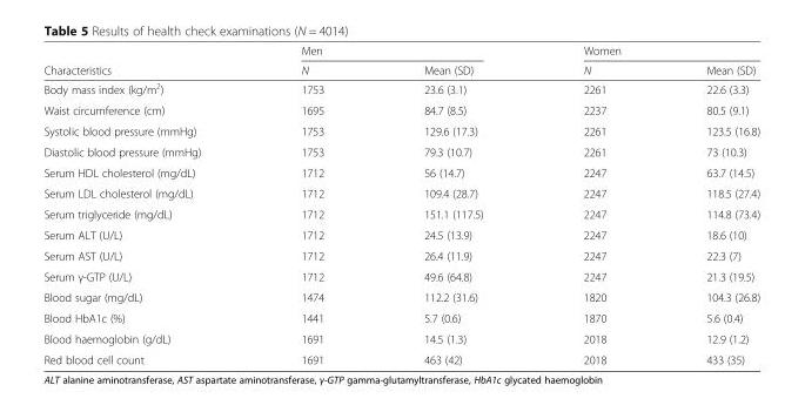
<table><thead><tr><td rowspan="2">Characteristics</td><td colspan="2">Men</td><td colspan="2">Women</td></tr><tr><td>N</td><td>Mean (SD)</td><td>N</td><td>Mean (SD)</td></tr></thead><tbody><tr><td>Body mass index (kg/m<sup>2</sup>)</td><td>1753</td><td>23.6 (3.1)</td><td>2261</td><td>22.6 (3.3)</td></tr><tr><td>Waist circumference (cm)</td><td>1695</td><td>84.7 (8.5)</td><td>2237</td><td>80.5 (9.1)</td></tr><tr><td>Systolic blood pressure (mmHg)</td><td>1753</td><td>129.6 (17.3)</td><td>2261</td><td>123.5 (16.8)</td></tr><tr><td>Diastolic blood pressure (mmHg)</td><td>1753</td><td>79.3 (10.7)</td><td>2261</td><td>73 (10.3)</td></tr><tr><td>Serum HDL cholesterol (mg/dL)</td><td>1712</td><td>56 (14.7)</td><td>2247</td><td>63.7 (14.5)</td></tr><tr><td>Serum LDL cholesterol (mg/dL)</td><td>1712</td><td>109.4 (28.7)</td><td>2247</td><td>118.5 (27.4)</td></tr><tr><td>Serum triglyceride (mg/dL)</td><td>1712</td><td>151.1 (117.5)</td><td>2247</td><td>114.8 (73.4)</td></tr><tr><td>Serum ALT (U/L)</td><td>1712</td><td>24.5 (13.9)</td><td>2247</td><td>18.6 (10)</td></tr><tr><td>Serum AST (U/L)</td><td>1712</td><td>26.4 (11.9)</td><td>2247</td><td>22.3 (7)</td></tr><tr><td>Serum γ-GTP (U/L)</td><td>1712</td><td>49.6 (64.8)</td><td>2247</td><td>21.3 (19.5)</td></tr><tr><td>Blood sugar (mg/dL)</td><td>1474</td><td>112.2 (31.6)</td><td>1820</td><td>104.3 (26.8)</td></tr><tr><td>Blood HbA1c (%)</td><td>1441</td><td>5.7 (0.6)</td><td>1870</td><td>5.6 (0.4)</td></tr><tr><td>Blood haemoglobin (g/dL)</td><td>1691</td><td>14.5 (1.3)</td><td>2018</td><td>12.9 (1.2)</td></tr><tr><td>Red blood cell count</td><td>1691</td><td>463 (42)</td><td>2018</td><td>433 (35)</td></tr></tbody></table>